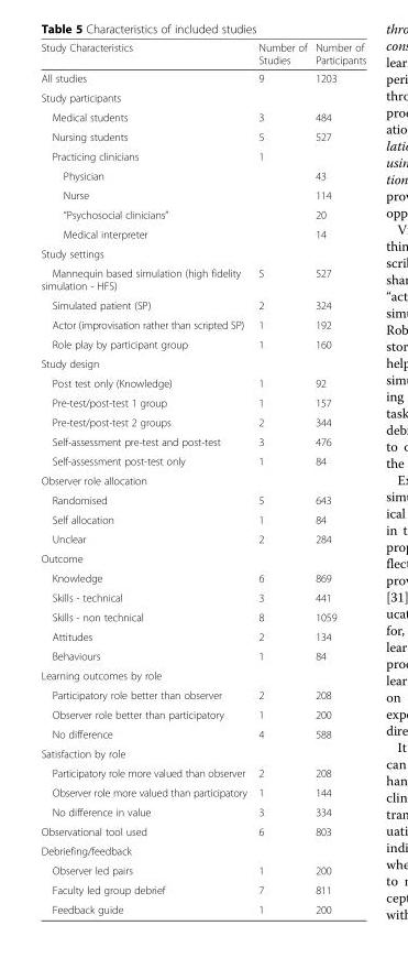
<table><thead><tr><td>Study Characteristics</td><td>Number of Studies</td><td>Number of Participants</td></tr></thead><tbody><tr><td>All studies</td><td>9</td><td>1203</td></tr><tr><td colspan="3">Study participants</td></tr><tr><td>Medical students</td><td>3</td><td>484</td></tr><tr><td>Nursing students</td><td>5</td><td>527</td></tr><tr><td>Practicing clinicians</td><td>1</td><td></td></tr><tr><td>Physician</td><td></td><td>43</td></tr><tr><td>Nurse</td><td></td><td>114</td></tr><tr><td>“Psychosocial clinicians”</td><td></td><td>20</td></tr><tr><td>Medical interpreter</td><td></td><td>14</td></tr><tr><td colspan="3">Study settings</td></tr><tr><td>Mannequin based simulation (high fidelity simulation - HFS)</td><td>5</td><td>527</td></tr><tr><td>Simulated patient (SP)</td><td>2</td><td>324</td></tr><tr><td>Actor (improvisation rather than scripted SP)</td><td>1</td><td>192</td></tr><tr><td>Role play by participant group</td><td>1</td><td>160</td></tr><tr><td colspan="3">Study design</td></tr><tr><td>Post test only (Knowledge)</td><td>1</td><td>92</td></tr><tr><td>Pre-test/post-test 1 group</td><td>1</td><td>157</td></tr><tr><td>Pre-test/post-test 2 groups</td><td>2</td><td>344</td></tr><tr><td>Self-assessment pre-test and post-test</td><td>3</td><td>476</td></tr><tr><td>Self-assessment post-test only</td><td>1</td><td>84</td></tr><tr><td colspan="3">Observer role allocation</td></tr><tr><td>Randomised</td><td>5</td><td>643</td></tr><tr><td>Self allocation</td><td>1</td><td>84</td></tr><tr><td>Unclear</td><td>2</td><td>284</td></tr><tr><td colspan="3">Outcome</td></tr><tr><td>Knowledge</td><td>6</td><td>869</td></tr><tr><td>Skills - technical</td><td>3</td><td>441</td></tr><tr><td>Skills - non technical</td><td>8</td><td>1059</td></tr><tr><td>Attitudes</td><td>2</td><td>134</td></tr><tr><td>Behaviours</td><td>1</td><td>84</td></tr><tr><td colspan="3">Learning outcomes by role</td></tr><tr><td>Participatory role better than observer</td><td>2</td><td>208</td></tr><tr><td>Observer role better than participatory</td><td>1</td><td>200</td></tr><tr><td>No difference</td><td>4</td><td>588</td></tr><tr><td colspan="3">Satisfaction by role</td></tr><tr><td>Participatory role more valued than observer</td><td>2</td><td>208</td></tr><tr><td>Observer role more valued than participatory</td><td>1</td><td>144</td></tr><tr><td>No difference in value</td><td>3</td><td>334</td></tr><tr><td>Observational tool used</td><td>6</td><td>803</td></tr><tr><td colspan="3">Debriefing/feedback</td></tr><tr><td>Observer led pairs</td><td>1</td><td>200</td></tr><tr><td>Faculty led group debrief</td><td>7</td><td>811</td></tr><tr><td>Feedback guide</td><td>1</td><td>200</td></tr></tbody></table>